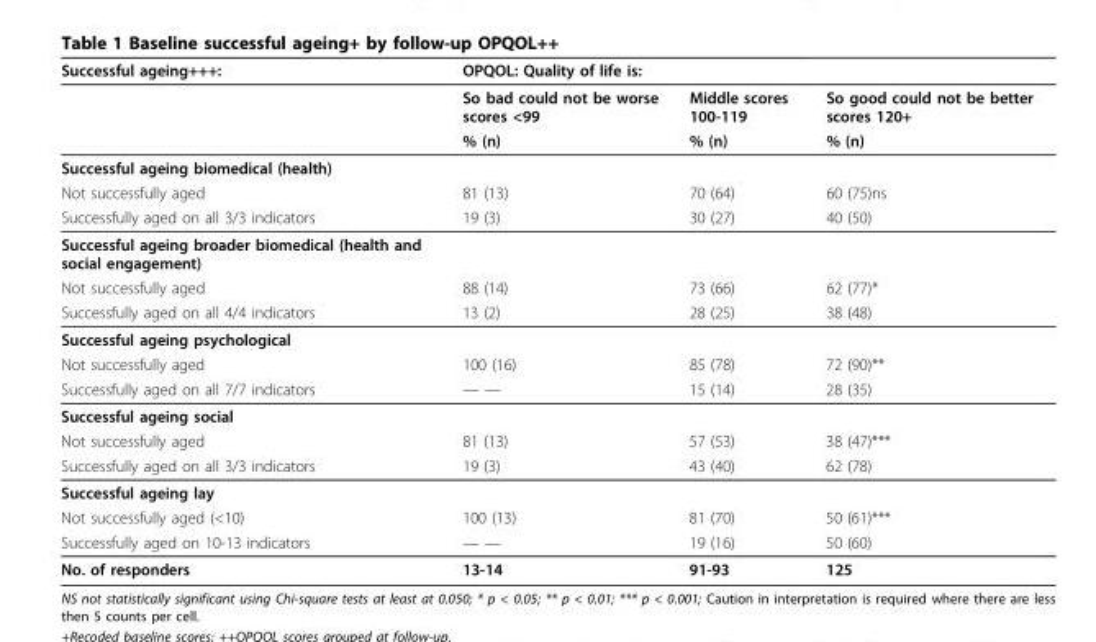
<table><thead><tr><td rowspan="2">Successful ageing+++:</td><td colspan="3">OPQOL: Quality of life is:</td></tr><tr><td>So bad could not be worse scores &lt;99</td><td>Middle scores 100-119</td><td>So good could not be better scores 120+</td></tr></thead><tbody><tr><td></td><td>% (n)</td><td>% (n)</td><td>% (n)</td></tr><tr><td colspan="4">Successful ageing biomedical (health)</td></tr><tr><td>Not successfully aged</td><td>81 (13)</td><td>70 (64)</td><td>60 (75)ns</td></tr><tr><td>Successfully aged on all 3/3 indicators</td><td>19 (3)</td><td>30 (27)</td><td>40 (50)</td></tr><tr><td colspan="4">Successful ageing broader biomedical (health and social engagement)</td></tr><tr><td>Not successfully aged</td><td>88 (14)</td><td>73 (66)</td><td>62 (77)*</td></tr><tr><td>Successfully aged on all 4/4 indicators</td><td>13 (2)</td><td>28 (25)</td><td>38 (48)</td></tr><tr><td colspan="4">Successful ageing psychological</td></tr><tr><td>Not successfully aged</td><td>100 (16)</td><td>85 (78)</td><td>72 (90)**</td></tr><tr><td>Successfully aged on all 7/7 indicators</td><td>— —</td><td>15 (14)</td><td>28 (35)</td></tr><tr><td colspan="4">Successful ageing social</td></tr><tr><td>Not successfully aged</td><td>81 (13)</td><td>57 (53)</td><td>38 (47)***</td></tr><tr><td>Successfully aged on all 3/3 indicators</td><td>19 (3)</td><td>43 (40)</td><td>62 (78)</td></tr><tr><td colspan="4">Successful ageing lay</td></tr><tr><td>Not successfully aged (&lt;10)</td><td>100 (13)</td><td>81 (70)</td><td>50 (61)***</td></tr><tr><td>Successfully aged on 10-13 indicators</td><td>— —</td><td>19 (16)</td><td>50 (60)</td></tr><tr><td>No. of responders</td><td>13-14</td><td>91-93</td><td>125</td></tr></tbody></table>